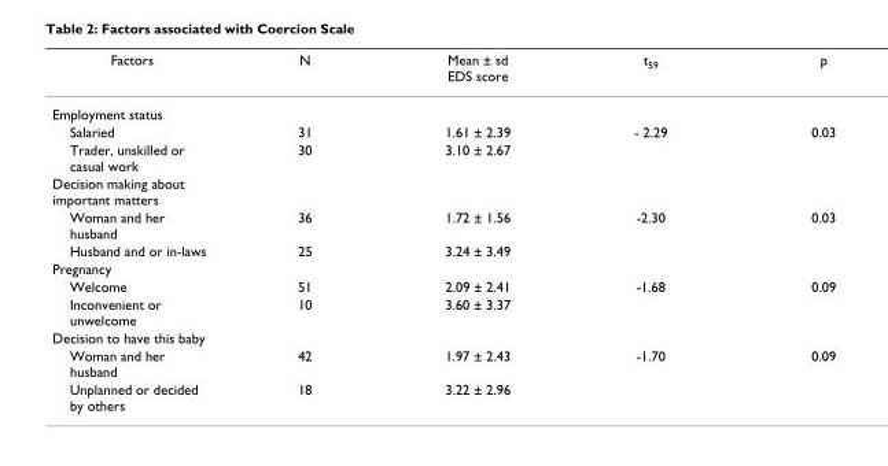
<table><thead><tr><td>Factors</td><td>N</td><td>Mean ± sd EDS score</td><td>t<sub>59</sub></td><td>p</td></tr></thead><tbody><tr><td colspan="5">Employment status</td></tr><tr><td>Salaried</td><td>31</td><td>1.61 ± 2.39</td><td>- 2.29</td><td>0.03</td></tr><tr><td>Trader, unskilled or casual work</td><td>30</td><td>3.10 ± 2.67</td><td></td><td></td></tr><tr><td colspan="5">Decision making about important matters</td></tr><tr><td>Woman and her husband</td><td>36</td><td>1.72 ± 1.56</td><td>-2.30</td><td>0.03</td></tr><tr><td>Husband and or in-laws</td><td>25</td><td>3.24 ± 3.49</td><td></td><td></td></tr><tr><td colspan="5">Pregnancy</td></tr><tr><td>Welcome</td><td>51</td><td>2.09 ± 2.41</td><td>-1.68</td><td>0.09</td></tr><tr><td>Inconvenient or unwelcome</td><td>10</td><td>3.60 ± 3.37</td><td></td><td></td></tr><tr><td colspan="5">Decision to have this baby</td></tr><tr><td>Woman and her husband</td><td>42</td><td>1.97 ± 2.43</td><td>-1.70</td><td>0.09</td></tr><tr><td>Unplanned or decided by others</td><td>18</td><td>3.22 ± 2.96</td><td></td><td></td></tr></tbody></table>